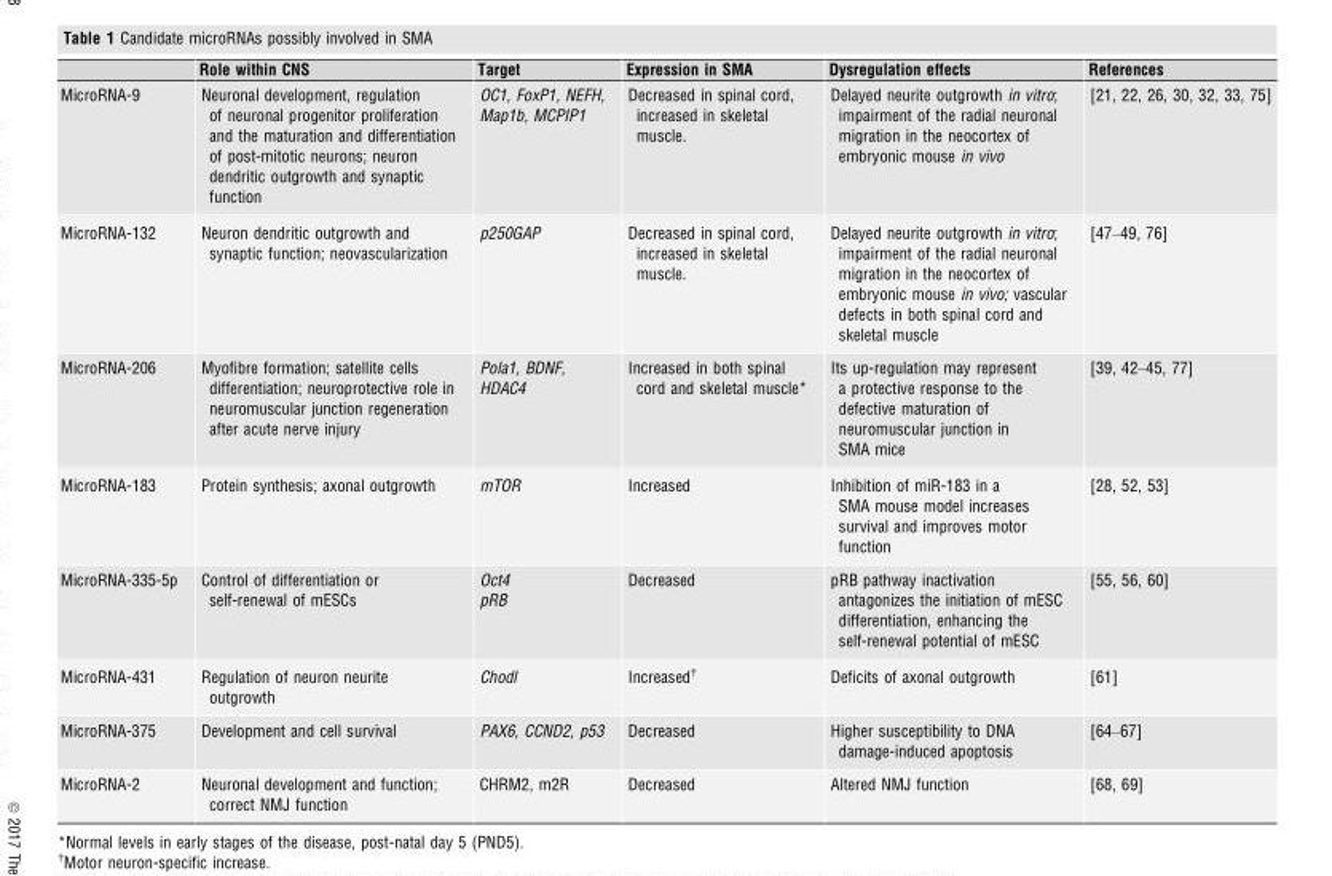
<table><thead><tr><td></td><td>Role within CNS</td><td>Target</td><td>Expression in SMA</td><td>Dysregulation effects</td><td>References</td></tr></thead><tbody><tr><td>MicroRNA-9</td><td>Neuronal development, regulation of neuronal progenitor proliferation and the maturation and differentiation of post-mitotic neurons; neuron dendritic outgrowth and synaptic function</td><td>OC1, FoxP1, NEFH, Map1b, MCPIP1</td><td>Decreased in spinal cord, increased in skeletal muscle.</td><td>Delayed neurite outgrowth in vitro; impairment of the radial neuronal migration in the neocortex of embryonic mouse in vivo</td><td>[21, 22, 26, 30, 32, 33, 75]</td></tr><tr><td>MicroRNA-132</td><td>Neuron dendritic outgrowth and synaptic function; neovascularization</td><td>p250GAP</td><td>Decreased in spinal cord, increased in skeletal muscle.</td><td>Delayed neurite outgrowth in vitro; impairment of the radial neuronal migration in the neocortex of embryonic mouse in vivo; vascular defects in both spinal cord and skeletal muscle</td><td>[47–49, 76]</td></tr><tr><td>MicroRNA-206</td><td>Myofibre formation; satellite cells differentiation; neuroprotective role in neuromuscular junction regeneration after acute nerve injury</td><td>Pola1, BDNF, HDAC4</td><td>Increased in both spinal cord and skeletal muscle*</td><td>Its up-regulation may represent a protective response to the defective maturation of neuromuscular junction in SMA mice</td><td>[39, 42–45, 77]</td></tr><tr><td>MicroRNA-183</td><td>Protein synthesis; axonal outgrowth</td><td>mTOR</td><td>Increased</td><td>Inhibition of miR-183 in a SMA mouse model increases survival and improves motor function</td><td>[28, 52, 53]</td></tr><tr><td>MicroRNA-335-5p</td><td>Control of differentiation or self-renewal of mESCs</td><td>Oct4 pRB</td><td>Decreased</td><td>pRB pathway inactivation antagonizes the initiation of mESC differentiation, enhancing the self-renewal potential of mESC</td><td>[55, 56, 60]</td></tr><tr><td>MicroRNA-431</td><td>Regulation of neuron neurite outgrowth</td><td>Chodl</td><td>Increased†</td><td>Deficits of axonal outgrowth</td><td>[61]</td></tr><tr><td>MicroRNA-375</td><td>Development and cell survival</td><td>PAX6, CCND2, p53</td><td>Decreased</td><td>Higher susceptibility to DNA damage-induced apoptosis</td><td>[64–67]</td></tr><tr><td>MicroRNA-2</td><td>Neuronal development and function; correct NMJ function</td><td>CHRM2, m2R</td><td>Decreased</td><td>Altered NMJ function</td><td>[68, 69]</td></tr></tbody></table>